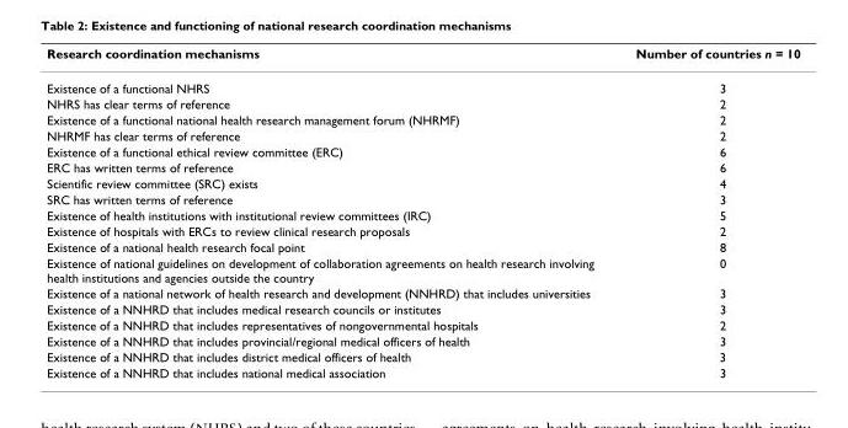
<table><thead><tr><td>Research coordination mechanisms</td><td>Number of countries n = 10</td></tr></thead><tbody><tr><td>Existence of a functional NHRS</td><td>3</td></tr><tr><td>NHRS has clear terms of reference</td><td>2</td></tr><tr><td>Existence of a functional national health research management forum (NHRMF)</td><td>2</td></tr><tr><td>NHRMF has clear terms of reference</td><td>2</td></tr><tr><td>Existence of a functional ethical review committee (ERC)</td><td>6</td></tr><tr><td>ERC has written terms of reference</td><td>6</td></tr><tr><td>Scientific review committee (SRC) exists</td><td>4</td></tr><tr><td>SRC has written terms of reference</td><td>3</td></tr><tr><td>Existence of health institutions with institutional review committees (IRC)</td><td>5</td></tr><tr><td>Existence of hospitals with ERCs to review clinical research proposals</td><td>2</td></tr><tr><td>Existence of a national health research focal point</td><td>8</td></tr><tr><td>Existence of national guidelines on development of collaboration agreements on health research involving health institutions and agencies outside the country</td><td>0</td></tr><tr><td>Existence of a national network of health research and development (NNHRD) that includes universities</td><td>3</td></tr><tr><td>Existence of a NNHRD that includes medical research councils or institutes</td><td>3</td></tr><tr><td>Existence of a NNHRD that includes representatives of nongovernmental hospitals</td><td>2</td></tr><tr><td>Existence of a NNHRD that includes provincial/regional medical officers of health</td><td>3</td></tr><tr><td>Existence of a NNHRD that includes district medical officers of health</td><td>3</td></tr><tr><td>Existence of a NNHRD that includes national medical association</td><td>3</td></tr></tbody></table>